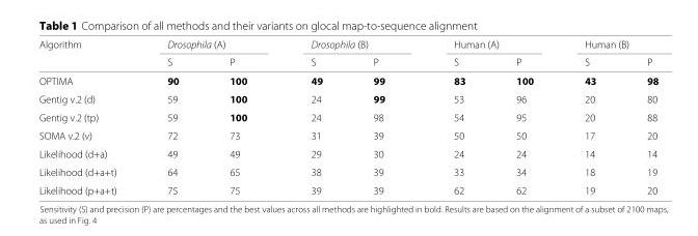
<table><thead><tr><td rowspan="2">Algorithm</td><td colspan="2">Drosophila (A)</td><td colspan="2">Drosophila (B)</td><td colspan="2">Human (A)</td><td colspan="2">Human (B)</td></tr><tr><td>S</td><td>P</td><td>S</td><td>P</td><td>S</td><td>P</td><td>S</td><td>P</td></tr></thead><tbody><tr><td>OPTIMA</td><td>90</td><td>100</td><td>49</td><td>99</td><td>83</td><td>100</td><td>43</td><td>98</td></tr><tr><td>Gentig v.2 (d)</td><td>59</td><td>100</td><td>24</td><td>99</td><td>53</td><td>96</td><td>20</td><td>80</td></tr><tr><td>Gentig v.2 (tp)</td><td>59</td><td>100</td><td>24</td><td>98</td><td>54</td><td>95</td><td>20</td><td>88</td></tr><tr><td>SOMA v.2 (v)</td><td>72</td><td>73</td><td>31</td><td>39</td><td>50</td><td>50</td><td>17</td><td>20</td></tr><tr><td>Likelihood (d+a)</td><td>49</td><td>49</td><td>29</td><td>30</td><td>24</td><td>24</td><td>14</td><td>14</td></tr><tr><td>Likelihood (d+a+t)</td><td>64</td><td>65</td><td>38</td><td>39</td><td>33</td><td>34</td><td>18</td><td>19</td></tr><tr><td>Likelihood (p+a+t)</td><td>75</td><td>75</td><td>39</td><td>39</td><td>62</td><td>62</td><td>19</td><td>20</td></tr></tbody></table>